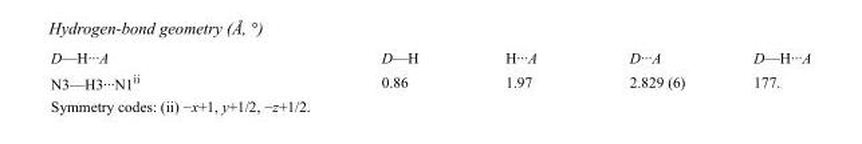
<table><tbody><tr><td>D—H···A</td><td>D—H</td><td>H···A</td><td>D···A</td><td>D—H···A</td></tr><tr><td>N3—H3···N1<sup>ii</sup></td><td>0.86</td><td>1.97</td><td>2.829 (6)</td><td>177.</td></tr></tbody></table>